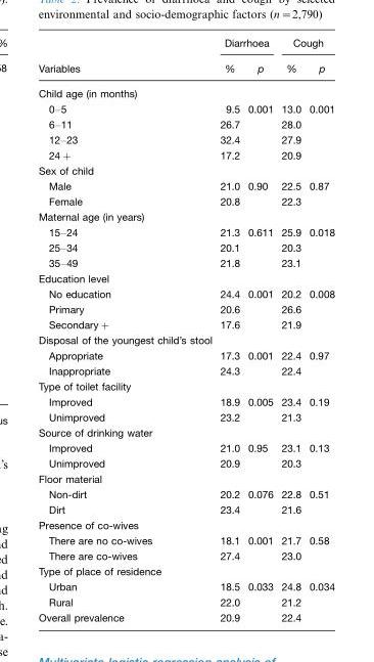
<table><thead><tr><td rowspan="2">Variables</td><td colspan="2">Diarrhoea</td><td colspan="2">Cough</td></tr><tr><td>%</td><td>p</td><td>%</td><td>p</td></tr></thead><tbody><tr><td colspan="5">Child age (in months)</td></tr><tr><td>0–5</td><td>9.5</td><td>0.001</td><td>13.0</td><td>0.001</td></tr><tr><td>6–11</td><td>26.7</td><td></td><td>28.0</td><td></td></tr><tr><td>12–23</td><td>32.4</td><td></td><td>27.9</td><td></td></tr><tr><td>24+</td><td>17.2</td><td></td><td>20.9</td><td></td></tr><tr><td colspan="5">Sex of child</td></tr><tr><td>Male</td><td>21.0</td><td>0.90</td><td>22.5</td><td>0.87</td></tr><tr><td>Female</td><td>20.8</td><td></td><td>22.3</td><td></td></tr><tr><td colspan="5">Maternal age (in years)</td></tr><tr><td>15–24</td><td>21.3</td><td>0.611</td><td>25.9</td><td>0.018</td></tr><tr><td>25–34</td><td>20.1</td><td></td><td>20.3</td><td></td></tr><tr><td>35–49</td><td>21.8</td><td></td><td>23.1</td><td></td></tr><tr><td colspan="5">Education level</td></tr><tr><td>No education</td><td>24.4</td><td>0.001</td><td>20.2</td><td>0.008</td></tr><tr><td>Primary</td><td>20.6</td><td></td><td>26.6</td><td></td></tr><tr><td>Secondary+</td><td>17.6</td><td></td><td>21.9</td><td></td></tr><tr><td colspan="5">Disposal of the youngest child’s stool</td></tr><tr><td>Appropriate</td><td>17.3</td><td>0.001</td><td>22.4</td><td>0.97</td></tr><tr><td>Inappropriate</td><td>24.3</td><td></td><td>22.4</td><td></td></tr><tr><td colspan="5">Type of toilet facility</td></tr><tr><td>Improved</td><td>18.9</td><td>0.005</td><td>23.4</td><td>0.19</td></tr><tr><td>Unimproved</td><td>23.2</td><td></td><td>21.3</td><td></td></tr><tr><td colspan="5">Source of drinking water</td></tr><tr><td>Improved</td><td>21.0</td><td>0.95</td><td>23.1</td><td>0.13</td></tr><tr><td>Unimproved</td><td>20.9</td><td></td><td>20.3</td><td></td></tr><tr><td colspan="5">Floor material</td></tr><tr><td>Non-dirt</td><td>20.2</td><td>0.076</td><td>22.8</td><td>0.51</td></tr><tr><td>Dirt</td><td>23.4</td><td></td><td>21.6</td><td></td></tr><tr><td colspan="5">Presence of co-wives</td></tr><tr><td>There are no co-wives</td><td>18.1</td><td>0.001</td><td>21.7</td><td>0.58</td></tr><tr><td>There are co-wives</td><td>27.4</td><td></td><td>23.0</td><td></td></tr><tr><td colspan="5">Type of place of residence</td></tr><tr><td>Urban</td><td>18.5</td><td>0.033</td><td>24.8</td><td>0.034</td></tr><tr><td>Rural</td><td>22.0</td><td></td><td>21.2</td><td></td></tr><tr><td>Overall prevalence</td><td>20.9</td><td></td><td>22.4</td><td></td></tr></tbody></table>